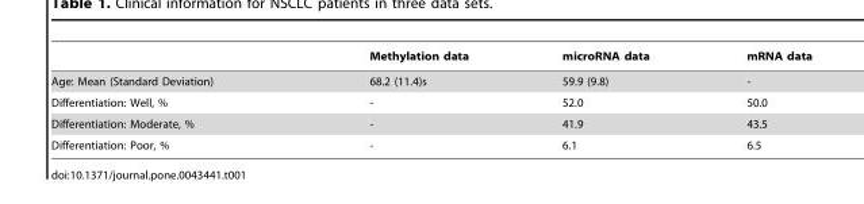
<table><thead><tr><td></td><td>Methylation data</td><td>microRNA data</td><td>mRNA data</td></tr></thead><tbody><tr><td>Age: Mean (Standard Deviation)</td><td>68.2 (11.4)s</td><td>59.9 (9.8)</td><td>-</td></tr><tr><td>Differentiation: Well, %</td><td>-</td><td>52.0</td><td>50.0</td></tr><tr><td>Differentiation: Moderate, %</td><td>-</td><td>41.9</td><td>43.5</td></tr><tr><td>Differentiation: Poor, %</td><td>-</td><td>6.1</td><td>6.5</td></tr></tbody></table>